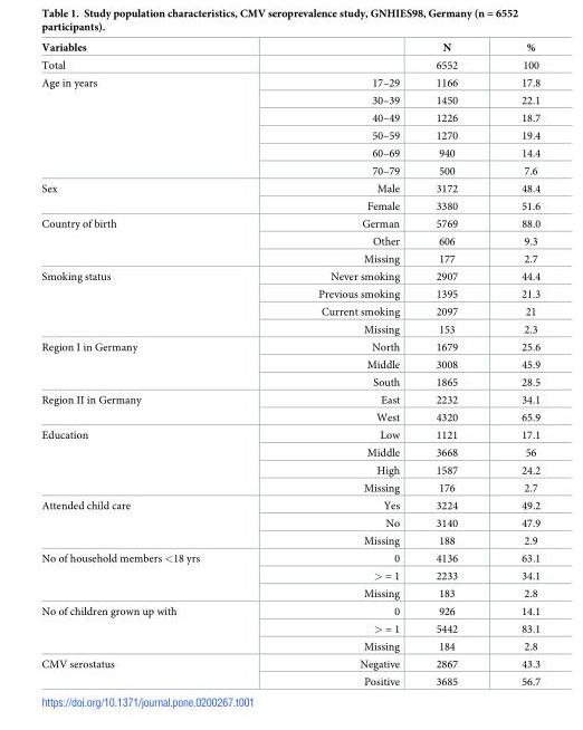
<table><thead><tr><td>Variables</td><td></td><td>N</td><td>%</td></tr></thead><tbody><tr><td>Total</td><td></td><td>6552</td><td>100</td></tr><tr><td rowspan="6">Age in years</td><td>17–29</td><td>1166</td><td>17.8</td></tr><tr><td>30–39</td><td>1450</td><td>22.1</td></tr><tr><td>40–49</td><td>1226</td><td>18.7</td></tr><tr><td>50–59</td><td>1270</td><td>19.4</td></tr><tr><td>60–69</td><td>940</td><td>14.4</td></tr><tr><td>70–79</td><td>500</td><td>7.6</td></tr><tr><td rowspan="2">Sex</td><td>Male</td><td>3172</td><td>48.4</td></tr><tr><td>Female</td><td>3380</td><td>51.6</td></tr><tr><td rowspan="3">Country of birth</td><td>German</td><td>5769</td><td>88.0</td></tr><tr><td>Other</td><td>606</td><td>9.3</td></tr><tr><td>Missing</td><td>177</td><td>2.7</td></tr><tr><td rowspan="4">Smoking status</td><td>Never smoking</td><td>2907</td><td>44.4</td></tr><tr><td>Previous smoking</td><td>1395</td><td>21.3</td></tr><tr><td>Current smoking</td><td>2097</td><td>21</td></tr><tr><td>Missing</td><td>153</td><td>2.3</td></tr><tr><td rowspan="3">Region I in Germany</td><td>North</td><td>1679</td><td>25.6</td></tr><tr><td>Middle</td><td>3008</td><td>45.9</td></tr><tr><td>South</td><td>1865</td><td>28.5</td></tr><tr><td rowspan="2">Region II in Germany</td><td>East</td><td>2232</td><td>34.1</td></tr><tr><td>West</td><td>4320</td><td>65.9</td></tr><tr><td rowspan="4">Education</td><td>Low</td><td>1121</td><td>17.1</td></tr><tr><td>Middle</td><td>3668</td><td>56</td></tr><tr><td>High</td><td>1587</td><td>24.2</td></tr><tr><td>Missing</td><td>176</td><td>2.7</td></tr><tr><td rowspan="3">Attended child care</td><td>Yes</td><td>3224</td><td>49.2</td></tr><tr><td>No</td><td>3140</td><td>47.9</td></tr><tr><td>Missing</td><td>188</td><td>2.9</td></tr><tr><td rowspan="3">No of household members &lt;18 yrs</td><td>0</td><td>4136</td><td>63.1</td></tr><tr><td>&gt; = 1</td><td>2233</td><td>34.1</td></tr><tr><td>Missing</td><td>183</td><td>2.8</td></tr><tr><td rowspan="3">No of children grown up with</td><td>0</td><td>926</td><td>14.1</td></tr><tr><td>&gt; = 1</td><td>5442</td><td>83.1</td></tr><tr><td>Missing</td><td>184</td><td>2.8</td></tr><tr><td rowspan="2">CMV serostatus</td><td>Negative</td><td>2867</td><td>43.3</td></tr><tr><td>Positive</td><td>3685</td><td>56.7</td></tr></tbody></table>